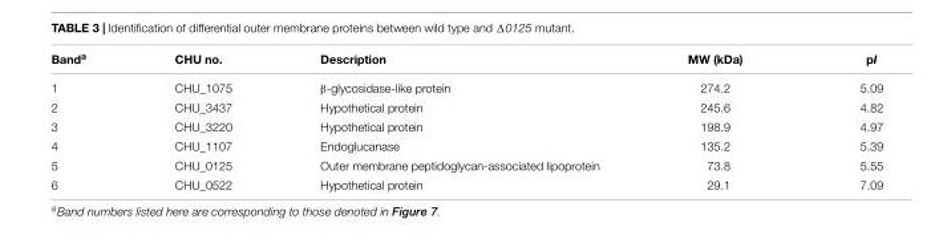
<table><thead><tr><td>Band<sup>a</sup></td><td>CHU no.</td><td>Description</td><td>MW (kDa)</td><td>pI</td></tr></thead><tbody><tr><td>1</td><td>CHU_1075</td><td>β-glycosidase-like protein</td><td>274.2</td><td>5.09</td></tr><tr><td>2</td><td>CHU_3437</td><td>Hypothetical protein</td><td>245.6</td><td>4.82</td></tr><tr><td>3</td><td>CHU_3220</td><td>Hypothetical protein</td><td>198.9</td><td>4.97</td></tr><tr><td>4</td><td>CHU_1107</td><td>Endoglucanase</td><td>135.2</td><td>5.39</td></tr><tr><td>5</td><td>CHU_0125</td><td>Outer membrane peptidoglycan-associated lipoprotein</td><td>73.8</td><td>5.55</td></tr><tr><td>6</td><td>CHU_0522</td><td>Hypothetical protein</td><td>29.1</td><td>7.09</td></tr></tbody></table>